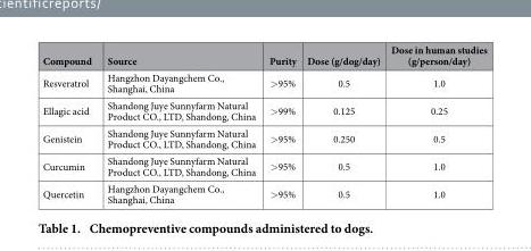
<table><thead><tr><td>Compound</td><td>Source</td><td>Purity</td><td>Dose (g/dog/day)</td><td>Dose in human studies (g/person/day)</td></tr></thead><tbody><tr><td>Resveratrol</td><td>Hangzhon Dayangchem Co., Shanghai, China</td><td>&gt; 95%</td><td>0.5</td><td>1.0</td></tr><tr><td>Ellagic acid</td><td>Shandong Juye Sunnyfarm Natural Product CO., LTD, Shandong, China</td><td>&gt; 99%</td><td>0.125</td><td>0.25</td></tr><tr><td>Genistein</td><td>Shandong Juye Sunnyfarm Natural Product CO., LTD, Shandong, China</td><td>&gt; 95%</td><td>0.250</td><td>0.5</td></tr><tr><td>Curcumin</td><td>Shandong Juye Sunnyfarm Natural Product CO., LTD, Shandong, China</td><td>&gt; 95%</td><td>0.5</td><td>1.0</td></tr><tr><td>Quercetin</td><td>Hangzhon Dayangchem Co., Shanghai, China</td><td>&gt; 95%</td><td>0.5</td><td>1.0</td></tr></tbody></table>